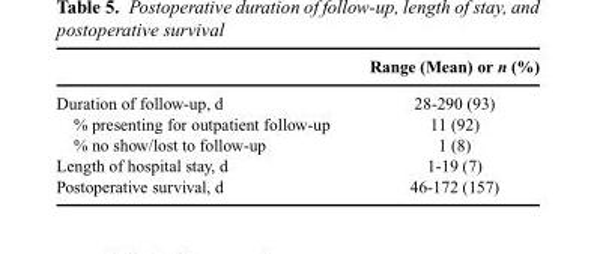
<table><thead><tr><td></td><td>Range (Mean) or n (%)</td></tr></thead><tbody><tr><td>Duration of follow-up, d</td><td>28-290 (93)</td></tr><tr><td>% presenting for outpatient follow-up</td><td>11 (92)</td></tr><tr><td>% no show/lost to follow-up</td><td>1 (8)</td></tr><tr><td>Length of hospital stay, d</td><td>1-19 (7)</td></tr><tr><td>Postoperative survival, d</td><td>46-172 (157)</td></tr></tbody></table>